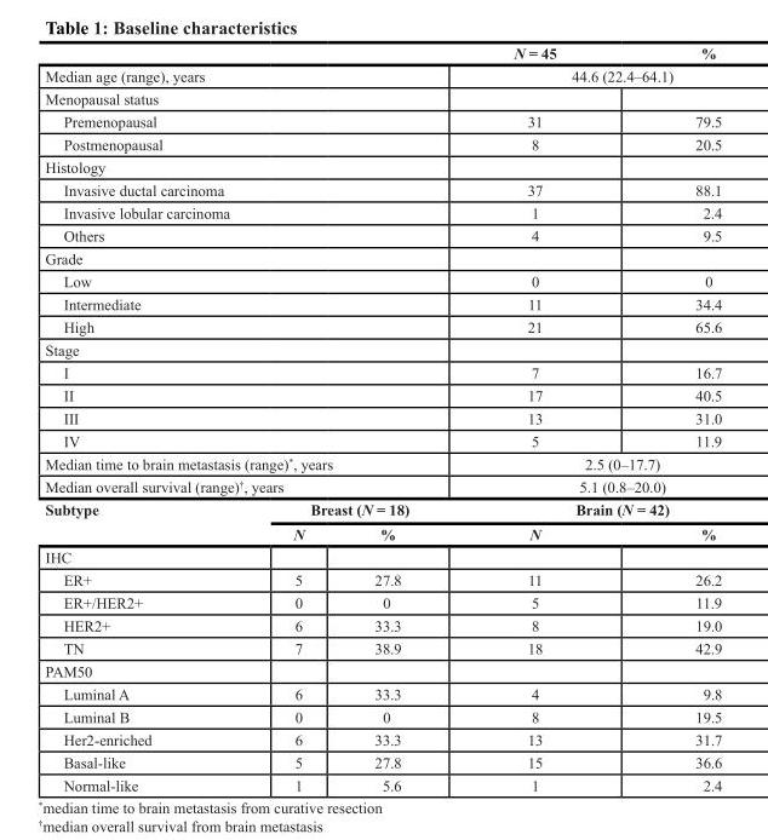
<table><thead><tr><td></td><td></td><td></td><td>N = 45</td><td>%</td></tr></thead><tbody><tr><td colspan="3">Median age (range), years</td><td colspan="2">44.6 (22.4–64.1)</td></tr><tr><td colspan="5">Menopausal status</td></tr><tr><td colspan="3">Premenopausal</td><td>31</td><td>79.5</td></tr><tr><td colspan="3">Postmenopausal</td><td>8</td><td>20.5</td></tr><tr><td colspan="5">Histology</td></tr><tr><td colspan="3">Invasive ductal carcinoma</td><td>37</td><td>88.1</td></tr><tr><td colspan="3">Invasive lobular carcinoma</td><td>1</td><td>2.4</td></tr><tr><td colspan="3">Others</td><td>4</td><td>9.5</td></tr><tr><td colspan="5">Grade</td></tr><tr><td colspan="3">Low</td><td>0</td><td>0</td></tr><tr><td colspan="3">Intermediate</td><td>11</td><td>34.4</td></tr><tr><td colspan="3">High</td><td>21</td><td>65.6</td></tr><tr><td colspan="5">Stage</td></tr><tr><td colspan="3">I</td><td>7</td><td>16.7</td></tr><tr><td colspan="3">II</td><td>17</td><td>40.5</td></tr><tr><td colspan="3">III</td><td>13</td><td>31.0</td></tr><tr><td colspan="3">IV</td><td>5</td><td>11.9</td></tr><tr><td colspan="3">Median time to brain metastasis (range)*, years</td><td colspan="2">2.5 (0–17.7)</td></tr><tr><td colspan="3">Median overall survival (range)<sup>†</sup>, years</td><td colspan="2">5.1 (0.8–20.0)</td></tr><tr><td rowspan="2">Subtype</td><td colspan="2">Breast (N = 18)</td><td colspan="2">Brain (N = 42)</td></tr><tr><td>N</td><td>%</td><td>N</td><td>%</td></tr><tr><td colspan="5">IHC</td></tr><tr><td>ER+</td><td>5</td><td>27.8</td><td>11</td><td>26.2</td></tr><tr><td>ER+/HER2+</td><td>0</td><td>0</td><td>5</td><td>11.9</td></tr><tr><td>HER2+</td><td>6</td><td>33.3</td><td>8</td><td>19.0</td></tr><tr><td>TN</td><td>7</td><td>38.9</td><td>18</td><td>42.9</td></tr><tr><td colspan="5">PAM50</td></tr><tr><td>Luminal A</td><td>6</td><td>33.3</td><td>4</td><td>9.8</td></tr><tr><td>Luminal B</td><td>0</td><td>0</td><td>8</td><td>19.5</td></tr><tr><td>Her2-enriched</td><td>6</td><td>33.3</td><td>13</td><td>31.7</td></tr><tr><td>Basal-like</td><td>5</td><td>27.8</td><td>15</td><td>36.6</td></tr><tr><td>Normal-like</td><td>1</td><td>5.6</td><td>1</td><td>2.4</td></tr></tbody></table>